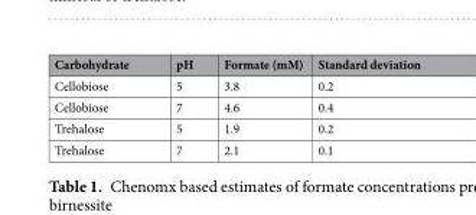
<table><thead><tr><td>Carbohydrate</td><td>pH</td><td>Formate (mM)</td><td>Standard deviation</td></tr></thead><tbody><tr><td>Cellobiose</td><td>5</td><td>3.8</td><td>0.2</td></tr><tr><td>Cellobiose</td><td>7</td><td>4.6</td><td>0.4</td></tr><tr><td>Trehalose</td><td>5</td><td>1.9</td><td>0.2</td></tr><tr><td>Trehalose</td><td>7</td><td>2.1</td><td>0.1</td></tr></tbody></table>